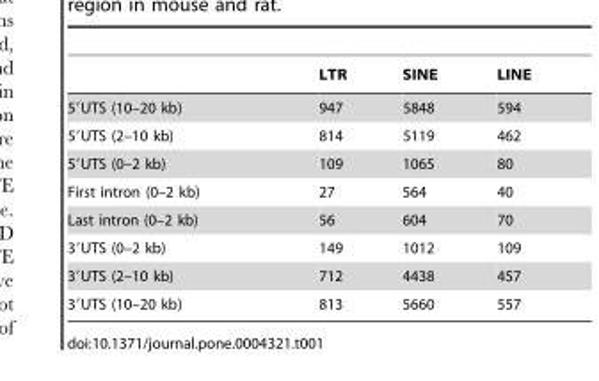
<table><thead><tr><td></td><td>LTR</td><td>SINE</td><td>LINE</td></tr></thead><tbody><tr><td>5′UTS (10–20 kb)</td><td>947</td><td>5848</td><td>594</td></tr><tr><td>5′UTS (2–10 kb)</td><td>814</td><td>5119</td><td>462</td></tr><tr><td>5′UTS (0–2 kb)</td><td>109</td><td>1065</td><td>80</td></tr><tr><td>First intron (0–2 kb)</td><td>27</td><td>564</td><td>40</td></tr><tr><td>Last intron (0–2 kb)</td><td>56</td><td>604</td><td>70</td></tr><tr><td>3′UTS (0–2 kb)</td><td>149</td><td>1012</td><td>109</td></tr><tr><td>3′UTS (2–10 kb)</td><td>712</td><td>4438</td><td>457</td></tr><tr><td>3′UTS (10–20 kb)</td><td>813</td><td>5660</td><td>557</td></tr></tbody></table>